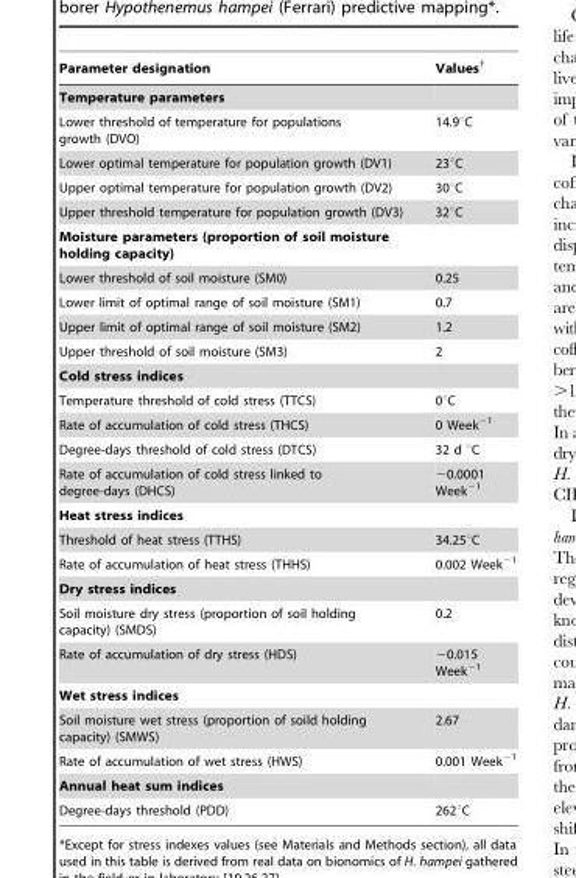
<table><thead><tr><td>Parameter designation</td><td>Values†</td></tr></thead><tbody><tr><td colspan="2">Temperature parameters</td></tr><tr><td>Lower threshold of temperature for populations growth (DVO)</td><td>14.9°C</td></tr><tr><td>Lower optimal temperature for population growth (DV1)</td><td>23°C</td></tr><tr><td>Upper optimal temperature for population growth (DV2)</td><td>30°C</td></tr><tr><td>Upper threshold temperature for population growth (DV3)</td><td>32°C</td></tr><tr><td colspan="2">Moisture parameters (proportion of soil moisture holding capacity)</td></tr><tr><td>Lower threshold of soil moisture (SM0)</td><td>0.25</td></tr><tr><td>Lower limit of optimal range of soil moisture (SM1)</td><td>0.7</td></tr><tr><td>Upper limit of optimal range of soil moisture (SM2)</td><td>1.2</td></tr><tr><td>Upper threshold of soil moisture (SM3)</td><td>2</td></tr><tr><td colspan="2">Cold stress indices</td></tr><tr><td>Temperature threshold of cold stress (TTCS)</td><td>0°C</td></tr><tr><td>Rate of accumulation of cold stress (THCS)</td><td>0 Week<sup>−1</sup></td></tr><tr><td>Degree-days threshold of cold stress (DTCS)</td><td>32 d °C</td></tr><tr><td>Rate of accumulation of cold stress linked to degree-days (DHCS)</td><td>−0.0001 Week<sup>−1</sup></td></tr><tr><td colspan="2">Heat stress indices</td></tr><tr><td>Threshold of heat stress (TTHS)</td><td>34.25°C</td></tr><tr><td>Rate of accumulation of heat stress (THHS)</td><td>0.002 Week<sup>−1</sup></td></tr><tr><td colspan="2">Dry stress indices</td></tr><tr><td>Soil moisture dry stress (proportion of soil holding capacity) (SMDS)</td><td>0.2</td></tr><tr><td>Rate of accumulation of dry stress (HDS)</td><td>−0.015 Week<sup>−1</sup></td></tr><tr><td colspan="2">Wet stress indices</td></tr><tr><td>Soil moisture wet stress (proportion of soild holding capacity) (SMWS)</td><td>2.67</td></tr><tr><td>Rate of accumulation of wet stress (HWS)</td><td>0.001 Week<sup>−1</sup></td></tr><tr><td colspan="2">Annual heat sum indices</td></tr><tr><td>Degree-days threshold (PDD)</td><td>262°C</td></tr></tbody></table>